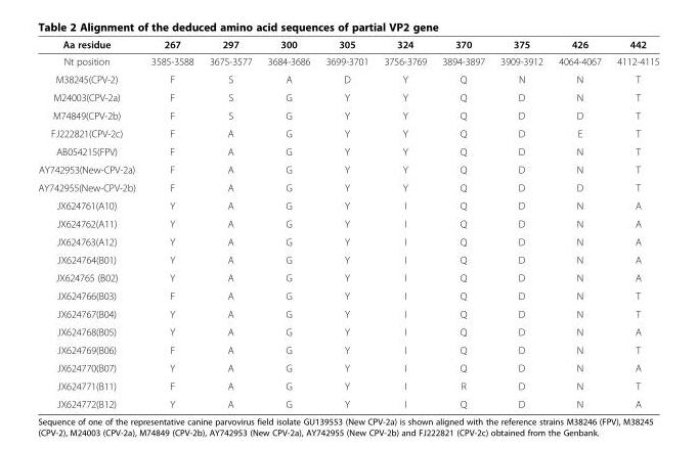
<table><thead><tr><td>Aa residue</td><td>267</td><td>297</td><td>300</td><td>305</td><td>324</td><td>370</td><td>375</td><td>426</td><td>442</td></tr></thead><tbody><tr><td>Nt position</td><td>3585-3588</td><td>3675-3577</td><td>3684-3686</td><td>3699-3701</td><td>3756-3769</td><td>3894-3897</td><td>3909-3912</td><td>4064-4067</td><td>4112-4115</td></tr><tr><td>M38245(CPV-2)</td><td>F</td><td>S</td><td>A</td><td>D</td><td>Y</td><td>Q</td><td>N</td><td>N</td><td>T</td></tr><tr><td>M24003(CPV-2a)</td><td>F</td><td>S</td><td>G</td><td>Y</td><td>Y</td><td>Q</td><td>D</td><td>N</td><td>T</td></tr><tr><td>M74849(CPV-2b)</td><td>F</td><td>S</td><td>G</td><td>Y</td><td>Y</td><td>Q</td><td>D</td><td>D</td><td>T</td></tr><tr><td>FJ222821(CPV-2c)</td><td>F</td><td>A</td><td>G</td><td>Y</td><td>Y</td><td>Q</td><td>D</td><td>E</td><td>T</td></tr><tr><td>AB054215(FPV)</td><td>F</td><td>A</td><td>G</td><td>Y</td><td>Y</td><td>Q</td><td>D</td><td>N</td><td>T</td></tr><tr><td>AY742953(New-CPV-2a)</td><td>F</td><td>A</td><td>G</td><td>Y</td><td>Y</td><td>Q</td><td>D</td><td>N</td><td>T</td></tr><tr><td>AY742955(New-CPV-2b)</td><td>F</td><td>A</td><td>G</td><td>Y</td><td>Y</td><td>Q</td><td>D</td><td>D</td><td>T</td></tr><tr><td>JX624761(A10)</td><td>Y</td><td>A</td><td>G</td><td>Y</td><td>I</td><td>Q</td><td>D</td><td>N</td><td>A</td></tr><tr><td>JX624762(A11)</td><td>Y</td><td>A</td><td>G</td><td>Y</td><td>I</td><td>Q</td><td>D</td><td>N</td><td>A</td></tr><tr><td>JX624763(A12)</td><td>Y</td><td>A</td><td>G</td><td>Y</td><td>I</td><td>Q</td><td>D</td><td>N</td><td>A</td></tr><tr><td>JX624764(B01)</td><td>Y</td><td>A</td><td>G</td><td>Y</td><td>I</td><td>Q</td><td>D</td><td>N</td><td>A</td></tr><tr><td>JX624765 (B02)</td><td>Y</td><td>A</td><td>G</td><td>Y</td><td>I</td><td>Q</td><td>D</td><td>N</td><td>A</td></tr><tr><td>JX624766(B03)</td><td>F</td><td>A</td><td>G</td><td>Y</td><td>I</td><td>Q</td><td>D</td><td>N</td><td>T</td></tr><tr><td>JX624767(B04)</td><td>Y</td><td>A</td><td>G</td><td>Y</td><td>I</td><td>Q</td><td>D</td><td>N</td><td>T</td></tr><tr><td>JX624768(B05)</td><td>Y</td><td>A</td><td>G</td><td>Y</td><td>I</td><td>Q</td><td>D</td><td>N</td><td>A</td></tr><tr><td>JX624769(B06)</td><td>F</td><td>A</td><td>G</td><td>Y</td><td>I</td><td>Q</td><td>D</td><td>N</td><td>T</td></tr><tr><td>JX624770(B07)</td><td>Y</td><td>A</td><td>G</td><td>Y</td><td>I</td><td>Q</td><td>D</td><td>N</td><td>A</td></tr><tr><td>JX624771(B11)</td><td>F</td><td>A</td><td>G</td><td>Y</td><td>I</td><td>R</td><td>D</td><td>N</td><td>T</td></tr><tr><td>JX624772(B12)</td><td>Y</td><td>A</td><td>G</td><td>Y</td><td>I</td><td>Q</td><td>D</td><td>N</td><td>A</td></tr></tbody></table>